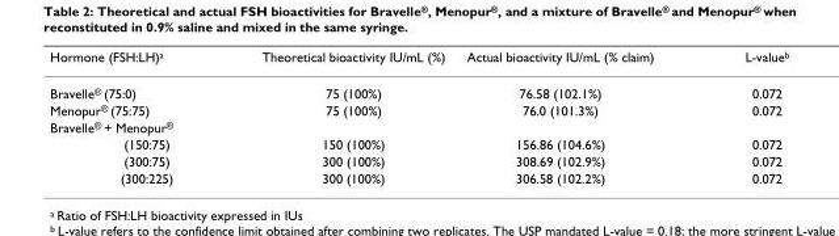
<table><thead><tr><td>Hormone (FSH:LH)<sup>a</sup></td><td>Theoretical bioactivity IU/mL (%)</td><td>Actual bioactivity IU/mL (% claim)</td><td>L-value<sup>b</sup></td></tr></thead><tbody><tr><td>Bravelle<sup>®</sup> (75:0)</td><td>75 (100%)</td><td>76.58 (102.1%)</td><td>0.072</td></tr><tr><td>Menopur<sup>®</sup> (75:75)</td><td>75 (100%)</td><td>76.0 (101.3%)</td><td>0.072</td></tr><tr><td colspan="4">Bravelle<sup>®</sup> + Menopur<sup>®</sup></td></tr><tr><td>(150:75)</td><td>150 (100%)</td><td>156.86 (104.6%)</td><td>0.072</td></tr><tr><td>(300:75)</td><td>300 (100%)</td><td>308.69 (102.9%)</td><td>0.072</td></tr><tr><td>(300:225)</td><td>300 (100%)</td><td>306.58 (102.2%)</td><td>0.072</td></tr></tbody></table>